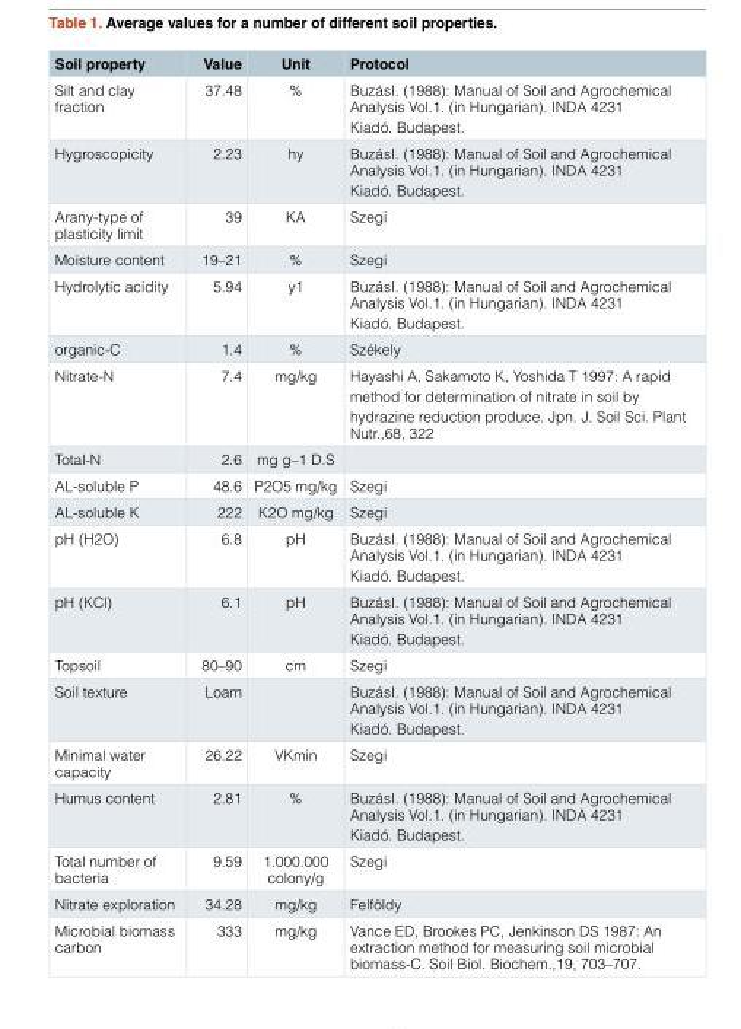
<table><thead><tr><td>Soil property</td><td>Value</td><td>Unit</td><td>Protocol</td></tr></thead><tbody><tr><td>Silt and clay fraction</td><td>37.48</td><td>%</td><td>BuzásI. (1988): Manual of Soil and Agrochemical Analysis Vol.1. (in Hungarian). INDA 4231 Kiadó. Budapest.</td></tr><tr><td>Hygroscopicity</td><td>2.23</td><td>hy</td><td>BuzásI. (1988): Manual of Soil and Agrochemical Analysis Vol.1. (in Hungarian). INDA 4231 Kiadó. Budapest.</td></tr><tr><td>Arany-type of plasticity limit</td><td>39</td><td>KA</td><td>Szegi</td></tr><tr><td>Moisture content</td><td>19–21</td><td>%</td><td>Szegi</td></tr><tr><td>Hydrolytic acidity</td><td>5.94</td><td>y1</td><td>BuzásI. (1988): Manual of Soil and Agrochemical Analysis Vol.1. (in Hungarian). INDA 4231 Kiadó. Budapest.</td></tr><tr><td>organic-C</td><td>1.4</td><td>%</td><td>Székely</td></tr><tr><td>Nitrate-N</td><td>7.4</td><td>mg/kg</td><td>Hayashi A, Sakamoto K, Yoshida T 1997: A rapid method for determination of nitrate in soil by hydrazine reduction produce. Jpn. J. Soil Sci. Plant Nutr.,68, 322</td></tr><tr><td>Total-N</td><td>2.6</td><td>mg g–1 D.S</td><td></td></tr><tr><td>AL-soluble P</td><td>48.6</td><td>P2O5 mg/kg</td><td>Szegi</td></tr><tr><td>AL-soluble K</td><td>222</td><td>K2O mg/kg</td><td>Szegi</td></tr><tr><td>pH (H2O)</td><td>6.8</td><td>pH</td><td>BuzásI. (1988): Manual of Soil and Agrochemical Analysis Vol.1. (in Hungarian). INDA 4231 Kiadó. Budapest.</td></tr><tr><td>pH (KCl)</td><td>6.1</td><td>pH</td><td>BuzásI. (1988): Manual of Soil and Agrochemical Analysis Vol.1. (in Hungarian). INDA 4231 Kiadó. Budapest.</td></tr><tr><td>Topsoil</td><td>80–90</td><td>cm</td><td>Szegi</td></tr><tr><td>Soil texture</td><td>Loam</td><td></td><td>BuzásI. (1988): Manual of Soil and Agrochemical Analysis Vol.1. (in Hungarian). INDA 4231 Kiadó. Budapest.</td></tr><tr><td>Minimal water capacity</td><td>26.22</td><td>VKmin</td><td>Szegi</td></tr><tr><td>Humus content</td><td>2.81</td><td>%</td><td>BuzásI. (1988): Manual of Soil and Agrochemical Analysis Vol.1. (in Hungarian). INDA 4231 Kiadó. Budapest.</td></tr><tr><td>Total number of bacteria</td><td>9.59</td><td>1.000.000 colony/g</td><td>Szegi</td></tr><tr><td>Nitrate exploration</td><td>34.28</td><td>mg/kg</td><td>Felföldy</td></tr><tr><td>Microbial biomass carbon</td><td>333</td><td>mg/kg</td><td>Vance ED, Brookes PC, Jenkinson DS 1987: An extraction method for measuring soil microbial biomass-C. Soil Biol. Biochem.,19, 703–707.</td></tr></tbody></table>